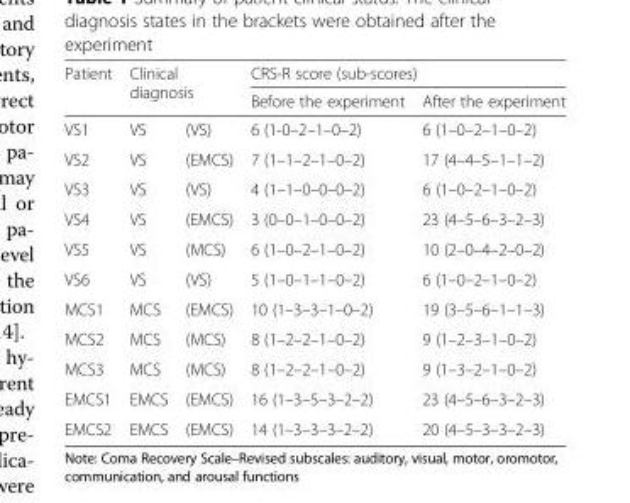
<table><thead><tr><td rowspan="3">Patient VS1</td><td rowspan="2" colspan="2">Clinical diagnosis</td><td colspan="2">CRS-R score (sub-scores)</td></tr><tr><td rowspan="2">Before the experiment 6 (1-0–2–1–0–2)</td><td rowspan="2">After the experiment 6 (1–0–2–1–0–2)</td></tr><tr><td>VS</td><td>(VS)</td></tr></thead><tbody><tr><td>VS2</td><td>VS</td><td>(EMCS)</td><td>7 (1–1–2–1–0–2)</td><td>17 (4–4–5–1–1–2)</td></tr><tr><td>VS3</td><td>VS</td><td>(VS)</td><td>4 (1–1–0–0–0–2)</td><td>6 (1–0–2–1–0–2)</td></tr><tr><td>VS4</td><td>VS</td><td>(EMCS)</td><td>3 (0–0–1–0–0–2)</td><td>23 (4–5–6–3–2–3)</td></tr><tr><td>VS5</td><td>VS</td><td>(MCS)</td><td>6 (1–0–2–1–0–2)</td><td>10 (2–0–4–2–0–2)</td></tr><tr><td>VS6</td><td>VS</td><td>(VS)</td><td>5 (1–0–1–1–0–2)</td><td>6 (1–0–2–1–0–2)</td></tr><tr><td>MCS1</td><td>MCS</td><td>(EMCS)</td><td>10 (1–3–3–1–0–2)</td><td>19 (3–5–6–1–1–3)</td></tr><tr><td>MCS2</td><td>MCS</td><td>(MCS)</td><td>8 (1–2–2–1–0–2)</td><td>9 (1–2–3–1–0–2)</td></tr><tr><td>MCS3</td><td>MCS</td><td>(MCS)</td><td>8 (1–2–2–1–0–2)</td><td>9 (1–3–2–1–0–2)</td></tr><tr><td>EMCS1</td><td>EMCS</td><td>(EMCS)</td><td>16 (1–3–5–3–2–2)</td><td>23 (4–5–6–3–2–3)</td></tr><tr><td>EMCS2</td><td>EMCS</td><td>(EMCS)</td><td>14 (1–3–3–3–2–2)</td><td>20 (4–5–3–3–2–3)</td></tr></tbody></table>